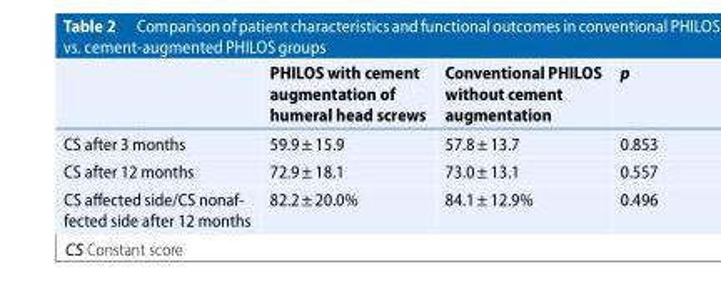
<table><thead><tr><td></td><td>PHILOS with cement augmentation of humeral head screws</td><td>Conventional PHILOS without cement augmentation</td><td>p</td></tr></thead><tbody><tr><td>CS after 3 months</td><td>59.9± 15.9</td><td>57.8± 13.7</td><td>0.853</td></tr><tr><td>CS after 12 months</td><td>72.9± 18.1</td><td>73.0± 13.1</td><td>0.557</td></tr><tr><td>CS affected side/CS nonaf- fected side after 12 months</td><td>82.2± 20.0%</td><td>84.1± 12.9%</td><td>0.496</td></tr></tbody></table>